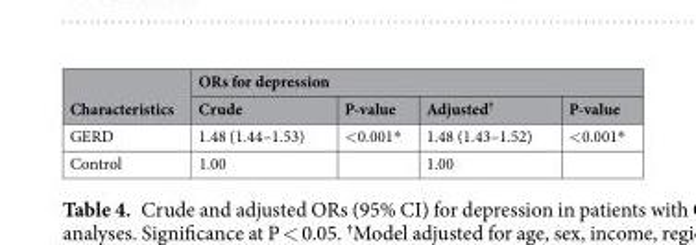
<table><thead><tr><td rowspan="2">Characteristics</td><td colspan="4">ORs for depression</td></tr><tr><td>Crude</td><td>P-value</td><td>Adjusted<sup>†</sup></td><td>P-value</td></tr></thead><tbody><tr><td>GERD</td><td>1.48 (1.44–1.53)</td><td>&lt;0.001*</td><td>1.48 (1.43–1.52)</td><td>&lt;0.001*</td></tr><tr><td>Control</td><td>1.00</td><td></td><td>1.00</td><td></td></tr></tbody></table>